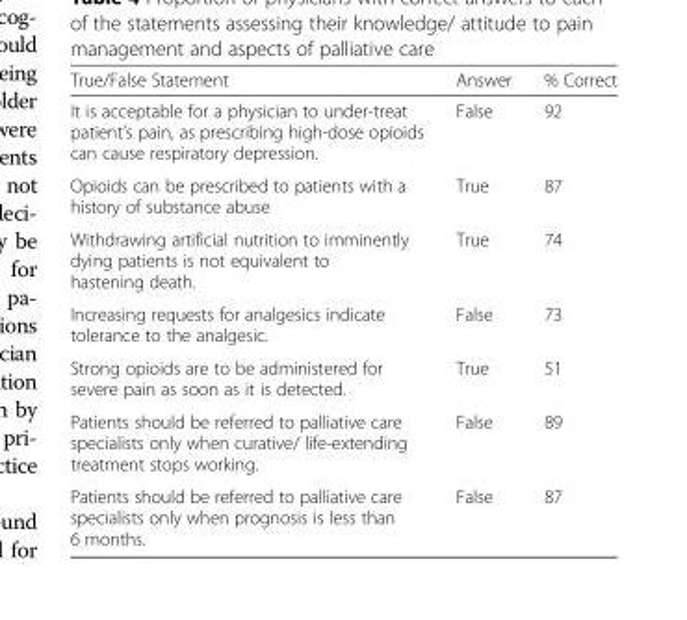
<table><thead><tr><td>True/False Statement</td><td>Answer</td><td>% Correct</td></tr></thead><tbody><tr><td>It is acceptable for a physician to under-treat patient’s pain, as prescribing high-dose opioids can cause respiratory depression.</td><td>False</td><td>92</td></tr><tr><td>Opioids can be prescribed to patients with a history of substance abuse</td><td>True</td><td>87</td></tr><tr><td>Withdrawing artificial nutrition to imminently dying patients is not equivalent to hastening death.</td><td>True</td><td>74</td></tr><tr><td>Increasing requests for analgesics indicate tolerance to the analgesic.</td><td>False</td><td>73</td></tr><tr><td>Strong opioids are to be administered for severe pain as soon as it is detected.</td><td>True</td><td>51</td></tr><tr><td>Patients should be referred to palliative care specialists only when curative/ life-extending treatment stops working.</td><td>False</td><td>89</td></tr><tr><td>Patients should be referred to palliative care specialists only when prognosis is less than 6 months.</td><td>False</td><td>87</td></tr></tbody></table>